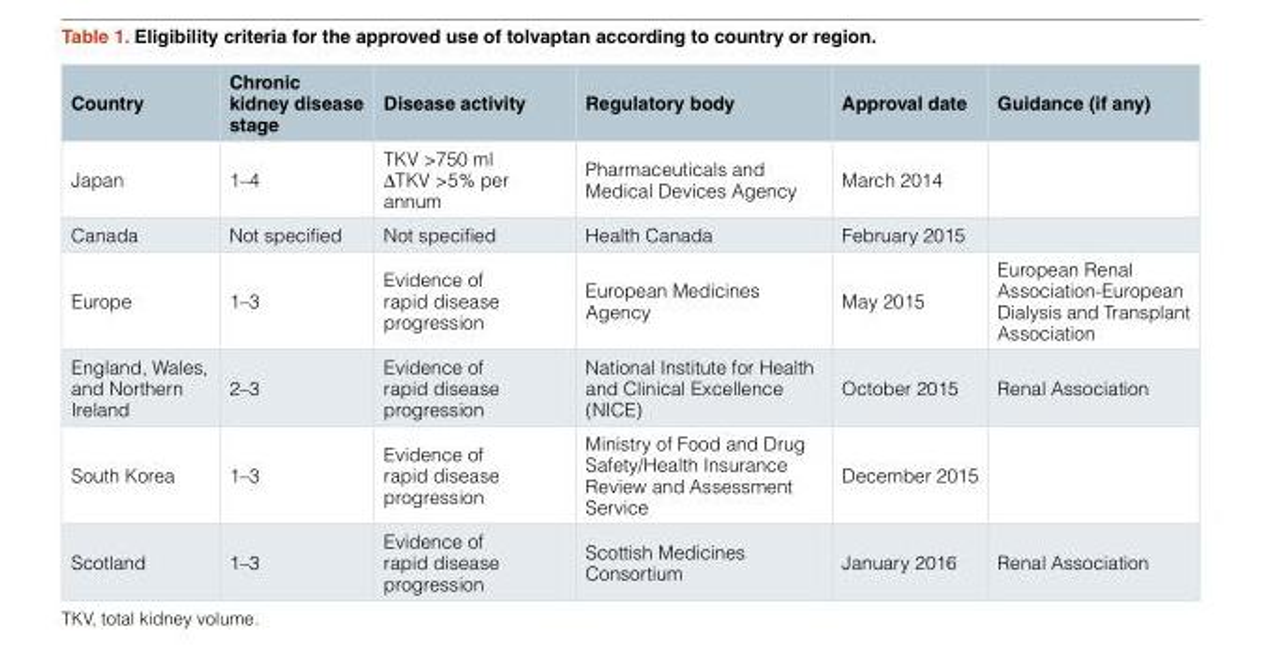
<table><thead><tr><td>Country</td><td>Chronic kidney disease stage</td><td>Disease activity</td><td>Regulatory body</td><td>Approval date</td><td>Guidance (if any)</td></tr></thead><tbody><tr><td>Japan</td><td>1–4</td><td>TKV &gt;750 ml ΔTKV &gt;5% per annum</td><td>Pharmaceuticals and Medical Devices Agency</td><td>March 2014</td><td></td></tr><tr><td>Canada</td><td>Not specified</td><td>Not specified</td><td>Health Canada</td><td>February 2015</td><td></td></tr><tr><td>Europe</td><td>1–3</td><td>Evidence of rapid disease progression</td><td>European Medicines Agency</td><td>May 2015</td><td>European Renal Association-European Dialysis and Transplant Association</td></tr><tr><td>England, Wales, and Northern Ireland</td><td>2–3</td><td>Evidence of rapid disease progression</td><td>National Institute for Health and Clinical Excellence (NICE)</td><td>October 2015</td><td>Renal Association</td></tr><tr><td>South Korea</td><td>1–3</td><td>Evidence of rapid disease progression</td><td>Ministry of Food and Drug Safety/Health Insurance Review and Assessment Service</td><td>December 2015</td><td></td></tr><tr><td>Scotland</td><td>1–3</td><td>Evidence of rapid disease progression</td><td>Scottish Medicines Consortium</td><td>January 2016</td><td>Renal Association</td></tr></tbody></table>